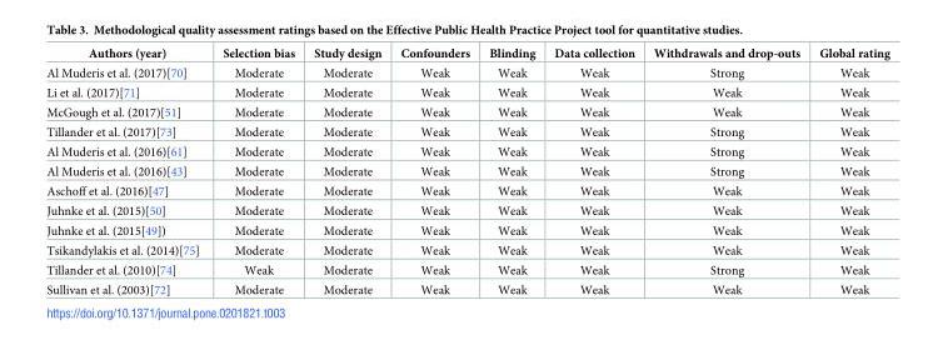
<table><thead><tr><td>Authors (year)</td><td>Selection bias</td><td>Study design</td><td>Confounders</td><td>Blinding</td><td>Data collection</td><td>Withdrawals and drop-outs</td><td>Global rating</td></tr></thead><tbody><tr><td>Al Muderis et al. (2017)[70]</td><td>Moderate</td><td>Moderate</td><td>Weak</td><td>Weak</td><td>Weak</td><td>Strong</td><td>Weak</td></tr><tr><td>Li et al. (2017)[71]</td><td>Moderate</td><td>Moderate</td><td>Weak</td><td>Weak</td><td>Weak</td><td>Weak</td><td>Weak</td></tr><tr><td>McGough et al. (2017)[51]</td><td>Moderate</td><td>Moderate</td><td>Weak</td><td>Weak</td><td>Weak</td><td>Weak</td><td>Weak</td></tr><tr><td>Tillander et al. (2017)[73]</td><td>Moderate</td><td>Moderate</td><td>Weak</td><td>Weak</td><td>Weak</td><td>Strong</td><td>Weak</td></tr><tr><td>Al Muderis et al. (2016)[61]</td><td>Moderate</td><td>Moderate</td><td>Weak</td><td>Weak</td><td>Weak</td><td>Strong</td><td>Weak</td></tr><tr><td>Al Muderis et al. (2016)[43]</td><td>Moderate</td><td>Moderate</td><td>Weak</td><td>Weak</td><td>Weak</td><td>Strong</td><td>Weak</td></tr><tr><td>Aschoff et al. (2016)[47]</td><td>Moderate</td><td>Moderate</td><td>Weak</td><td>Weak</td><td>Weak</td><td>Weak</td><td>Weak</td></tr><tr><td>Juhnke et al. (2015)[50]</td><td>Moderate</td><td>Moderate</td><td>Weak</td><td>Weak</td><td>Weak</td><td>Weak</td><td>Weak</td></tr><tr><td>Juhnke et al. (2015[49])</td><td>Moderate</td><td>Moderate</td><td>Weak</td><td>Weak</td><td>Weak</td><td>Weak</td><td>Weak</td></tr><tr><td>Tsikandylakis et al. (2014)[75]</td><td>Moderate</td><td>Moderate</td><td>Weak</td><td>Weak</td><td>Weak</td><td>Weak</td><td>Weak</td></tr><tr><td>Tillander et al. (2010)[74]</td><td>Weak</td><td>Moderate</td><td>Weak</td><td>Weak</td><td>Weak</td><td>Strong</td><td>Weak</td></tr><tr><td>Sullivan et al. (2003)[72]</td><td>Moderate</td><td>Moderate</td><td>Weak</td><td>Weak</td><td>Weak</td><td>Weak</td><td>Weak</td></tr></tbody></table>